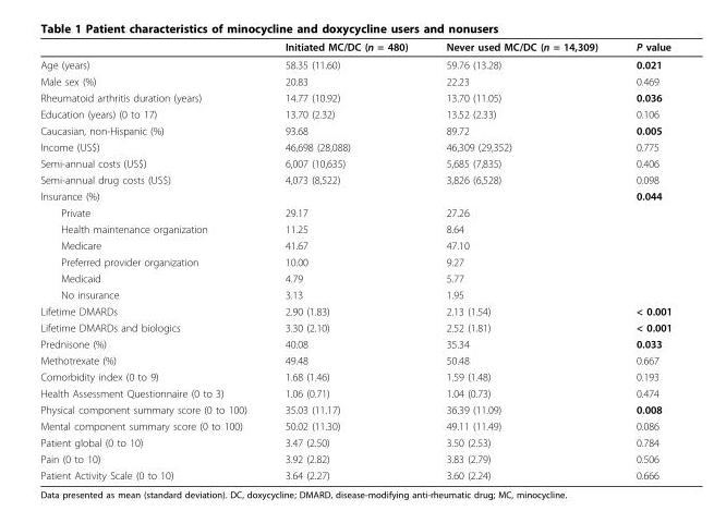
<table><thead><tr><td></td><td>Initiated MC/DC (n = 480)</td><td>Never used MC/DC (n = 14,309)</td><td>P value</td></tr></thead><tbody><tr><td>Age (years)</td><td>58.35 (11.60)</td><td>59.76 (13.28)</td><td>0.021</td></tr><tr><td>Male sex (%)</td><td>20.83</td><td>22.23</td><td>0.469</td></tr><tr><td>Rheumatoid arthritis duration (years)</td><td>14.77 (10.92)</td><td>13.70 (11.05)</td><td>0.036</td></tr><tr><td>Education (years) (0 to 17)</td><td>13.70 (2.32)</td><td>13.52 (2.33)</td><td>0.106</td></tr><tr><td>Caucasian, non-Hispanic (%)</td><td>93.68</td><td>89.72</td><td>0.005</td></tr><tr><td>Income (US$)</td><td>46,698 (28,088)</td><td>46,309 (29,352)</td><td>0.775</td></tr><tr><td>Semi-annual costs (US$)</td><td>6,007 (10,635)</td><td>5,685 (7,835)</td><td>0.406</td></tr><tr><td>Semi-annual drug costs (US$)</td><td>4,073 (8,522)</td><td>3,826 (6,528)</td><td>0.098</td></tr><tr><td>Insurance (%)</td><td></td><td></td><td>0.044</td></tr><tr><td>Private</td><td>29.17</td><td>27.26</td><td></td></tr><tr><td>Health maintenance organization</td><td>11.25</td><td>8.64</td><td></td></tr><tr><td>Medicare</td><td>41.67</td><td>47.10</td><td></td></tr><tr><td>Preferred provider organization</td><td>10.00</td><td>9.27</td><td></td></tr><tr><td>Medicaid</td><td>4.79</td><td>5.77</td><td></td></tr><tr><td>No insurance</td><td>3.13</td><td>1.95</td><td></td></tr><tr><td>Lifetime DMARDs</td><td>2.90 (1.83)</td><td>2.13 (1.54)</td><td>&lt; 0.001</td></tr><tr><td>Lifetime DMARDs and biologics</td><td>3.30 (2.10)</td><td>2.52 (1.81)</td><td>&lt; 0.001</td></tr><tr><td>Prednisone (%)</td><td>40.08</td><td>35.34</td><td>0.033</td></tr><tr><td>Methotrexate (%)</td><td>49.48</td><td>50.48</td><td>0.667</td></tr><tr><td>Comorbidity index (0 to 9)</td><td>1.68 (1.46)</td><td>1.59 (1.48)</td><td>0.193</td></tr><tr><td>Health Assessment Questionnaire (0 to 3)</td><td>1.06 (0.71)</td><td>1.04 (0.73)</td><td>0.474</td></tr><tr><td>Physical component summary score (0 to 100)</td><td>35.03 (11.17)</td><td>36.39 (11.09)</td><td>0.008</td></tr><tr><td>Mental component summary score (0 to 100)</td><td>50.02 (11.30)</td><td>49.11 (11.49)</td><td>0.086</td></tr><tr><td>Patient global (0 to 10)</td><td>3.47 (2.50)</td><td>3.50 (2.53)</td><td>0.784</td></tr><tr><td>Pain (0 to 10)</td><td>3.92 (2.82)</td><td>3.83 (2.79)</td><td>0.506</td></tr><tr><td>Patient Activity Scale (0 to 10)</td><td>3.64 (2.27)</td><td>3.60 (2.24)</td><td>0.666</td></tr></tbody></table>